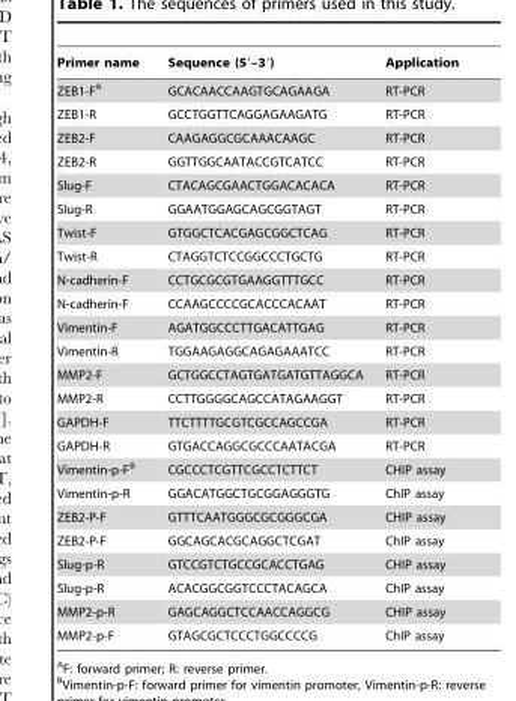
<table><thead><tr><td>Primer name</td><td>Sequence (5′–3′)</td><td>Application</td></tr></thead><tbody><tr><td>ZEB1-F<sup>A</sup></td><td>GCACAACCAAGTGCAGAAGA</td><td>RT-PCR</td></tr><tr><td>ZEB1-R</td><td>GCCTGGTTCAGGAGAAGATG</td><td>RT-PCR</td></tr><tr><td>ZEB2-F</td><td>CAAGAGGCGCAAACAAGC</td><td>RT-PCR</td></tr><tr><td>ZEB2-R</td><td>GGTTGGCAATACCGTCATCC</td><td>RT-PCR</td></tr><tr><td>Slug-F</td><td>CTACAGCGAACTGGACACACA</td><td>RT-PCR</td></tr><tr><td>Slug-R</td><td>GGAATGGAGCAGCGGTAGT</td><td>RT-PCR</td></tr><tr><td>Twist-F</td><td>GTGGCTCACGAGCGGCTCAG</td><td>RT-PCR</td></tr><tr><td>Twist-R</td><td>CTAGGTCTCCGGCCCTGCTG</td><td>RT-PCR</td></tr><tr><td>N-cadherin-F</td><td>CCTGCGCGTGAAGGTTTGCC</td><td>RT-PCR</td></tr><tr><td>N-cadherin-F</td><td>CCAAGCCCCGCACCCACAAT</td><td>RT-PCR</td></tr><tr><td>Vimentin-F</td><td>AGATGGCCCTTGACATTGAG</td><td>RT-PCR</td></tr><tr><td>Vimentin-R</td><td>TGGAAGAGGCAGAGAAATCC</td><td>RT-PCR</td></tr><tr><td>MMP2-F</td><td>GCTGGCCTAGTGATGATGTTAGGCA</td><td>RT-PCR</td></tr><tr><td>MMP2-R</td><td>CCTTGGGGCAGCCATAGAAGGT</td><td>RT-PCR</td></tr><tr><td>GAPDH-F</td><td>TTCTTTTGCGTCGCCAGCCGA</td><td>RT-PCR</td></tr><tr><td>GAPDH-R</td><td>GTGACCAGGCGCCCAATACGA</td><td>RT-PCR</td></tr><tr><td>Vimentin-p-F<sup>B</sup></td><td>CGCCCTCGTTCGCCTCTTCT</td><td>CHIP assay</td></tr><tr><td>Vimentin-p-R</td><td>GGACATGGCTGCGGAGGGTG</td><td>ChIP assay</td></tr><tr><td>ZEB2-P-F</td><td>GTTTCAATGGGCGCGGGCGA</td><td>CHIP assay</td></tr><tr><td>ZEB2-P-F</td><td>GGCAGCACGCAGGCTCGAT</td><td>ChIP assay</td></tr><tr><td>Slug-p-R</td><td>GTCCGTCTGCCGCACCTGAG</td><td>CHIP assay</td></tr><tr><td>Slug-p-R</td><td>ACACGGCGGTCCCTACAGCA</td><td>ChIP assay</td></tr><tr><td>MMP2-p-R</td><td>GAGCAGGCTCCAACCAGGCG</td><td>CHIP assay</td></tr><tr><td>MMP2-p-F</td><td>GTAGCGCTCCCTGGCCCCG</td><td>ChIP assay</td></tr></tbody></table>